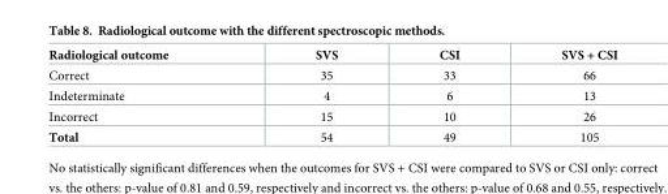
<table><thead><tr><td>Radiological outcome</td><td>SVS</td><td>CSI</td><td>SVS + CSI</td></tr></thead><tbody><tr><td>Correct</td><td>35</td><td>33</td><td>66</td></tr><tr><td>Indeterminate</td><td>4</td><td>6</td><td>13</td></tr><tr><td>Incorrect</td><td>15</td><td>10</td><td>26</td></tr><tr><td>Total</td><td>54</td><td>49</td><td>105</td></tr></tbody></table>